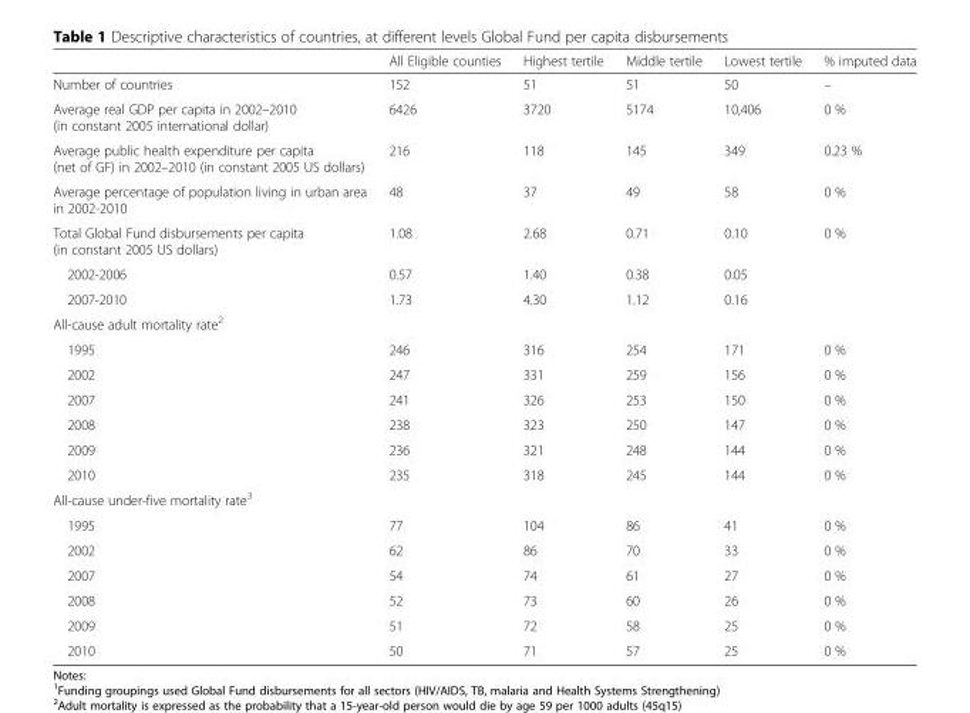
<table><thead><tr><td></td><td>All Eligible counties</td><td>Highest tertile</td><td>Middle tertile</td><td>Lowest tertile</td><td>% imputed data</td></tr></thead><tbody><tr><td>Number of countries</td><td>152</td><td>51</td><td>51</td><td>50</td><td>–</td></tr><tr><td>Average real GDP per capita in 2002–2010 (in constant 2005 international dollar)</td><td>6426</td><td>3720</td><td>5174</td><td>10,406</td><td>0 %</td></tr><tr><td>Average public health expenditure per capita (net of GF) in 2002–2010 (in constant 2005 US dollars)</td><td>216</td><td>118</td><td>145</td><td>349</td><td>0.23 %</td></tr><tr><td>Average percentage of population living in urban area in 2002-2010</td><td>48</td><td>37</td><td>49</td><td>58</td><td>0 %</td></tr><tr><td>Total Global Fund disbursements per capita (in constant 2005 US dollars)</td><td>1.08</td><td>2.68</td><td>0.71</td><td>0.10</td><td>0 %</td></tr><tr><td>2002-2006</td><td>0.57</td><td>1.40</td><td>0.38</td><td>0.05</td><td></td></tr><tr><td>2007-2010</td><td>1.73</td><td>4.30</td><td>1.12</td><td>0.16</td><td></td></tr><tr><td colspan="6">All-cause adult mortality rate<sup>2</sup></td></tr><tr><td>1995</td><td>246</td><td>316</td><td>254</td><td>171</td><td>0 %</td></tr><tr><td>2002</td><td>247</td><td>331</td><td>259</td><td>156</td><td>0 %</td></tr><tr><td>2007</td><td>241</td><td>326</td><td>253</td><td>150</td><td>0 %</td></tr><tr><td>2008</td><td>238</td><td>323</td><td>250</td><td>147</td><td>0 %</td></tr><tr><td>2009</td><td>236</td><td>321</td><td>248</td><td>144</td><td>0 %</td></tr><tr><td>2010</td><td>235</td><td>318</td><td>245</td><td>144</td><td>0 %</td></tr><tr><td colspan="6">All-cause under-five mortality rate<sup>3</sup></td></tr><tr><td>1995</td><td>77</td><td>104</td><td>86</td><td>41</td><td>0 %</td></tr><tr><td>2002</td><td>62</td><td>86</td><td>70</td><td>33</td><td>0 %</td></tr><tr><td>2007</td><td>54</td><td>74</td><td>61</td><td>27</td><td>0 %</td></tr><tr><td>2008</td><td>52</td><td>73</td><td>60</td><td>26</td><td>0 %</td></tr><tr><td>2009</td><td>51</td><td>72</td><td>58</td><td>25</td><td>0 %</td></tr><tr><td>2010</td><td>50</td><td>71</td><td>57</td><td>25</td><td>0 %</td></tr></tbody></table>